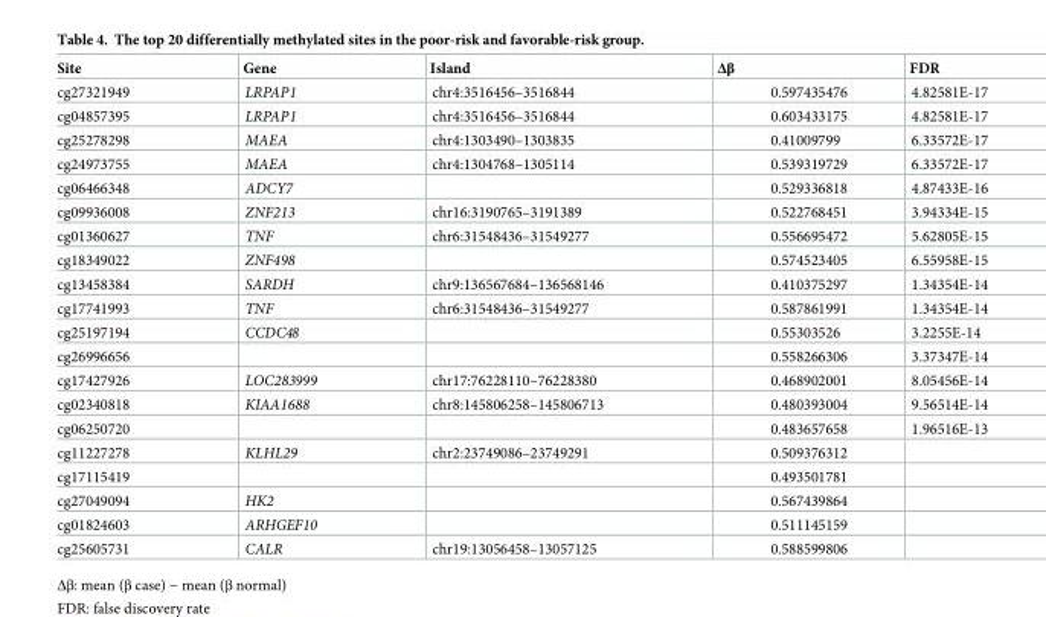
<table><thead><tr><td>Site</td><td>Gene</td><td>Island</td><td>Δβ</td><td>FDR</td></tr></thead><tbody><tr><td>cg27321949</td><td>LRPAP1</td><td>chr4:3516456–3516844</td><td>0.597435476</td><td>4.82581E-17</td></tr><tr><td>cg04857395</td><td>LRPAP1</td><td>chr4:3516456–3516844</td><td>0.603433175</td><td>4.82581E-17</td></tr><tr><td>cg25278298</td><td>MAEA</td><td>chr4:1303490–1303835</td><td>0.41009799</td><td>6.33572E-17</td></tr><tr><td>cg24973755</td><td>MAEA</td><td>chr4:1304768–1305114</td><td>0.539319729</td><td>6.33572E-17</td></tr><tr><td>cg06466348</td><td>ADCY7</td><td></td><td>0.529336818</td><td>4.87433E-16</td></tr><tr><td>cg09936008</td><td>ZNF213</td><td>chr16:3190765–3191389</td><td>0.522768451</td><td>3.94334E-15</td></tr><tr><td>cg01360627</td><td>TNF</td><td>chr6:31548436–31549277</td><td>0.556695472</td><td>5.62805E-15</td></tr><tr><td>cg18349022</td><td>ZNF498</td><td></td><td>0.574523405</td><td>6.55958E-15</td></tr><tr><td>cg13458384</td><td>SARDH</td><td>chr9:136567684–136568146</td><td>0.410375297</td><td>1.34354E-14</td></tr><tr><td>cg17741993</td><td>TNF</td><td>chr6:31548436–31549277</td><td>0.587861991</td><td>1.34354E-14</td></tr><tr><td>cg25197194</td><td>CCDC48</td><td></td><td>0.55303526</td><td>3.2255E-14</td></tr><tr><td>cg26996656</td><td></td><td></td><td>0.558266306</td><td>3.37347E-14</td></tr><tr><td>cg17427926</td><td>LOC283999</td><td>chr17:76228110–76228380</td><td>0.468902001</td><td>8.05456E-14</td></tr><tr><td>cg02340818</td><td>KIAA1688</td><td>chr8:145806258–145806713</td><td>0.480393004</td><td>9.56514E-14</td></tr><tr><td>cg06250720</td><td></td><td></td><td>0.483657658</td><td>1.96516E-13</td></tr><tr><td>cg11227278</td><td>KLHL29</td><td>chr2:23749086–23749291</td><td>0.509376312</td><td></td></tr><tr><td>cg17115419</td><td></td><td></td><td>0.493501781</td><td></td></tr><tr><td>cg27049094</td><td>HK2</td><td></td><td>0.567439864</td><td></td></tr><tr><td>cg01824603</td><td>ARHGEF10</td><td></td><td>0.511145159</td><td></td></tr><tr><td>cg25605731</td><td>CALR</td><td>chr19:13056458–13057125</td><td>0.588599806</td><td></td></tr></tbody></table>